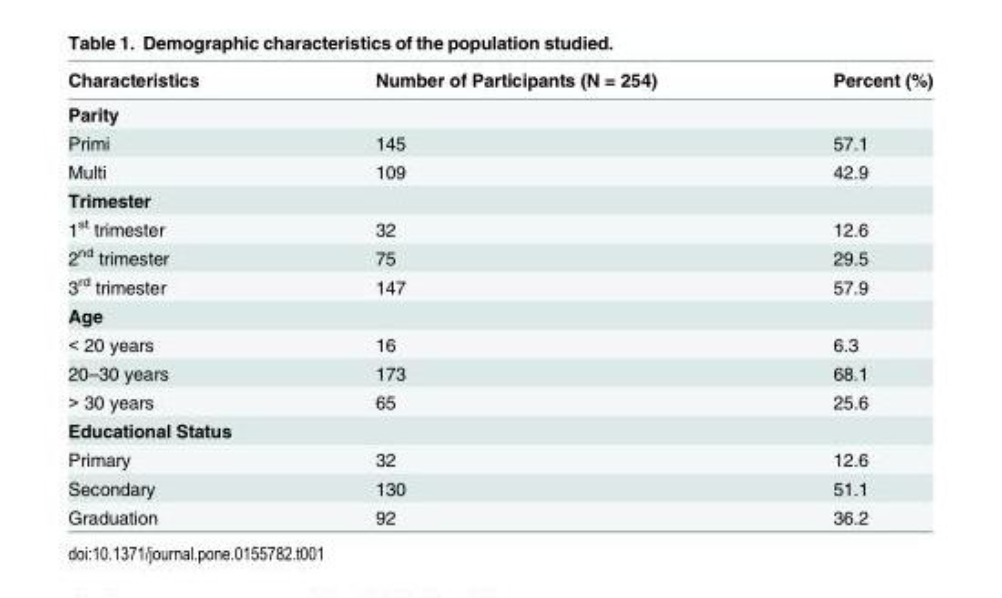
<table><thead><tr><td>Characteristics</td><td>Number of Participants (N = 254)</td><td>Percent (%)</td></tr></thead><tbody><tr><td colspan="3">Parity</td></tr><tr><td>Primi</td><td>145</td><td>57.1</td></tr><tr><td>Multi</td><td>109</td><td>42.9</td></tr><tr><td colspan="3">Trimester</td></tr><tr><td>1<sup>st</sup> trimester</td><td>32</td><td>12.6</td></tr><tr><td>2<sup>nd</sup> trimester</td><td>75</td><td>29.5</td></tr><tr><td>3<sup>rd</sup> trimester</td><td>147</td><td>57.9</td></tr><tr><td colspan="3">Age</td></tr><tr><td>&lt; 20 years</td><td>16</td><td>6.3</td></tr><tr><td>20–30 years</td><td>173</td><td>68.1</td></tr><tr><td>&gt; 30 years</td><td>65</td><td>25.6</td></tr><tr><td colspan="3">Educational Status</td></tr><tr><td>Primary</td><td>32</td><td>12.6</td></tr><tr><td>Secondary</td><td>130</td><td>51.1</td></tr><tr><td>Graduation</td><td>92</td><td>36.2</td></tr></tbody></table>